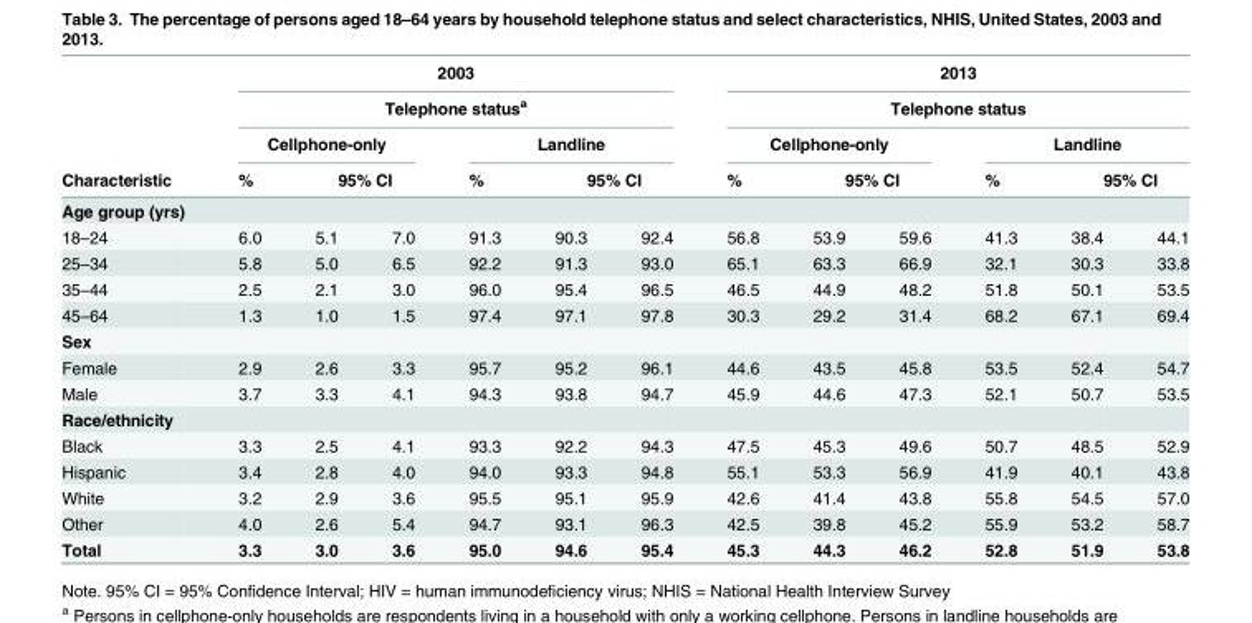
<table><thead><tr><td rowspan="5">Characteristic Age group (yrs)</td><td rowspan="2" colspan="6">2003 Telephone status<sup>a</sup></td><td rowspan="2" colspan="6">2013 Telephone status</td></tr><tr></tr><tr><td colspan="3">Cellphone-only</td><td colspan="3">Landline</td><td colspan="3">Cellphone-only</td><td colspan="3">Landline</td></tr><tr><td rowspan="2">%</td><td colspan="2">95% CI</td><td rowspan="2">%</td><td colspan="2">95% CI</td><td rowspan="2">%</td><td colspan="2">95% CI</td><td rowspan="2">%</td><td colspan="2">95% CI</td></tr><tr><td></td><td></td><td></td><td></td><td></td><td></td><td></td><td></td></tr></thead><tbody><tr><td>18–24</td><td>6.0</td><td>5.1</td><td>7.0</td><td>91.3</td><td>90.3</td><td>92.4</td><td>56.8</td><td>53.9</td><td>59.6</td><td>41.3</td><td>38.4</td><td>44.1</td></tr><tr><td>25–34</td><td>5.8</td><td>5.0</td><td>6.5</td><td>92.2</td><td>91.3</td><td>93.0</td><td>65.1</td><td>63.3</td><td>66.9</td><td>32.1</td><td>30.3</td><td>33.8</td></tr><tr><td>35–44</td><td>2.5</td><td>2.1</td><td>3.0</td><td>96.0</td><td>95.4</td><td>96.5</td><td>46.5</td><td>44.9</td><td>48.2</td><td>51.8</td><td>50.1</td><td>53.5</td></tr><tr><td>45–64</td><td>1.3</td><td>1.0</td><td>1.5</td><td>97.4</td><td>97.1</td><td>97.8</td><td>30.3</td><td>29.2</td><td>31.4</td><td>68.2</td><td>67.1</td><td>69.4</td></tr><tr><td colspan="13">Sex</td></tr><tr><td>Female</td><td>2.9</td><td>2.6</td><td>3.3</td><td>95.7</td><td>95.2</td><td>96.1</td><td>44.6</td><td>43.5</td><td>45.8</td><td>53.5</td><td>52.4</td><td>54.7</td></tr><tr><td>Male</td><td>3.7</td><td>3.3</td><td>4.1</td><td>94.3</td><td>93.8</td><td>94.7</td><td>45.9</td><td>44.6</td><td>47.3</td><td>52.1</td><td>50.7</td><td>53.5</td></tr><tr><td colspan="13">Race/ethnicity</td></tr><tr><td>Black</td><td>3.3</td><td>2.5</td><td>4.1</td><td>93.3</td><td>92.2</td><td>94.3</td><td>47.5</td><td>45.3</td><td>49.6</td><td>50.7</td><td>48.5</td><td>52.9</td></tr><tr><td>Hispanic</td><td>3.4</td><td>2.8</td><td>4.0</td><td>94.0</td><td>93.3</td><td>94.8</td><td>55.1</td><td>53.3</td><td>56.9</td><td>41.9</td><td>40.1</td><td>43.8</td></tr><tr><td>White</td><td>3.2</td><td>2.9</td><td>3.6</td><td>95.5</td><td>95.1</td><td>95.9</td><td>42.6</td><td>41.4</td><td>43.8</td><td>55.8</td><td>54.5</td><td>57.0</td></tr><tr><td>Other</td><td>4.0</td><td>2.6</td><td>5.4</td><td>94.7</td><td>93.1</td><td>96.3</td><td>42.5</td><td>39.8</td><td>45.2</td><td>55.9</td><td>53.2</td><td>58.7</td></tr><tr><td>Total</td><td>3.3</td><td>3.0</td><td>3.6</td><td>95.0</td><td>94.6</td><td>95.4</td><td>45.3</td><td>44.3</td><td>46.2</td><td>52.8</td><td>51.9</td><td>53.8</td></tr></tbody></table>